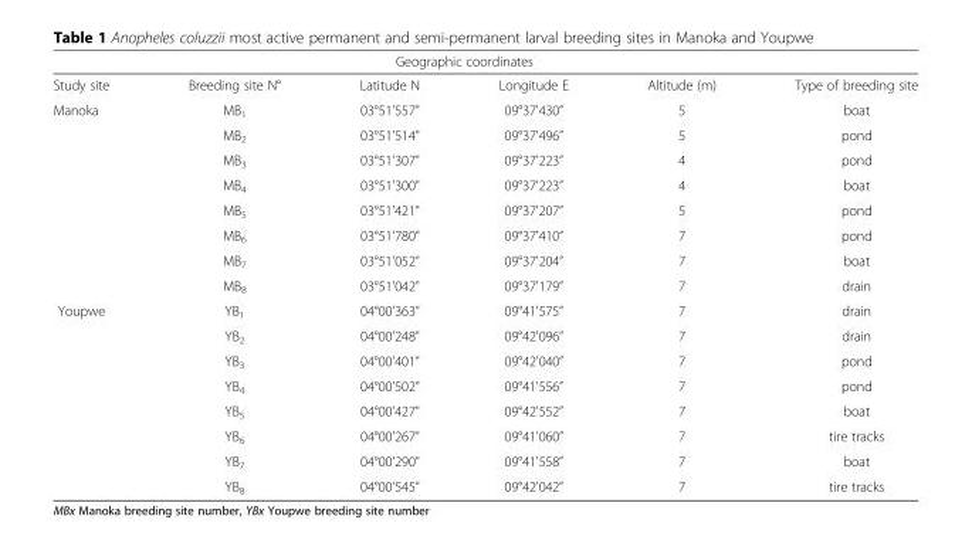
<table><thead><tr><td rowspan="2">Study site</td><td rowspan="2">Breeding site N°</td><td colspan="2">Geographic coordinates</td><td rowspan="2">Altitude (m)</td><td rowspan="2">Type of breeding site</td></tr><tr><td>Latitude N</td><td>Longitude E</td></tr></thead><tbody><tr><td rowspan="8">Manoka</td><td>MB<sub>1</sub></td><td>03°51&#x27;557”</td><td>09°37&#x27;430”</td><td>5</td><td>boat</td></tr><tr><td>MB<sub>2</sub></td><td>03°51&#x27;514”</td><td>09°37&#x27;496”</td><td>5</td><td>pond</td></tr><tr><td>MB<sub>3</sub></td><td>03°51&#x27;307”</td><td>09°37&#x27;223”</td><td>4</td><td>pond</td></tr><tr><td>MB<sub>4</sub></td><td>03°51&#x27;300”</td><td>09°37&#x27;223”</td><td>4</td><td>boat</td></tr><tr><td>MB<sub>5</sub></td><td>03°51&#x27;421”</td><td>09°37&#x27;207”</td><td>5</td><td>pond</td></tr><tr><td>MB<sub>6</sub></td><td>03°51&#x27;780”</td><td>09°37&#x27;410”</td><td>7</td><td>pond</td></tr><tr><td>MB<sub>7</sub></td><td>03°51&#x27;052”</td><td>09°37&#x27;204”</td><td>7</td><td>boat</td></tr><tr><td>MB<sub>8</sub></td><td>03°51&#x27;042”</td><td>09°37&#x27;179”</td><td>7</td><td>drain</td></tr><tr><td rowspan="8">Youpwe</td><td>YB<sub>1</sub></td><td>04°00&#x27;363”</td><td>09°41&#x27;575”</td><td>7</td><td>drain</td></tr><tr><td>YB<sub>2</sub></td><td>04°00&#x27;248”</td><td>09°42&#x27;096”</td><td>7</td><td>drain</td></tr><tr><td>YB<sub>3</sub></td><td>04°00&#x27;401”</td><td>09°42&#x27;040”</td><td>7</td><td>pond</td></tr><tr><td>YB<sub>4</sub></td><td>04°00&#x27;502”</td><td>09°41&#x27;556”</td><td>7</td><td>pond</td></tr><tr><td>YB<sub>5</sub></td><td>04°00&#x27;427”</td><td>09°42&#x27;552”</td><td>7</td><td>boat</td></tr><tr><td>YB<sub>6</sub></td><td>04°00&#x27;267”</td><td>09°41&#x27;060”</td><td>7</td><td>tire tracks</td></tr><tr><td>YB<sub>7</sub></td><td>04°00&#x27;290”</td><td>09°41&#x27;558”</td><td>7</td><td>boat</td></tr><tr><td>YB<sub>8</sub></td><td>04°00&#x27;545”</td><td>09°42&#x27;042”</td><td>7</td><td>tire tracks</td></tr></tbody></table>